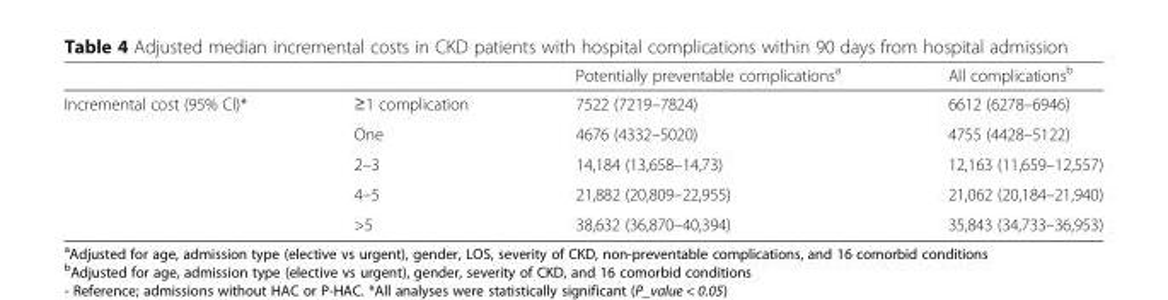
<table><thead><tr><td></td><td></td><td>Potentially preventable complications<sup>a</sup></td><td>All complications<sup>b</sup></td></tr></thead><tbody><tr><td rowspan="5">Incremental cost (95% CI)*</td><td>≥1 complication</td><td>7522 (7219–7824)</td><td>6612 (6278–6946)</td></tr><tr><td>One</td><td>4676 (4332–5020)</td><td>4755 (4428–5122)</td></tr><tr><td>2–3</td><td>14,184 (13,658–14,73)</td><td>12,163 (11,659–12,557)</td></tr><tr><td>4–5</td><td>21,882 (20,809–22,955)</td><td>21,062 (20,184–21,940)</td></tr><tr><td>&gt;5</td><td>38,632 (36,870–40,394)</td><td>35,843 (34,733–36,953)</td></tr></tbody></table>